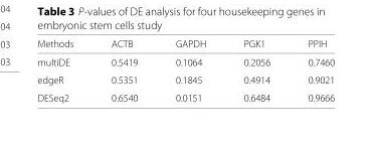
<table><thead><tr><td>Methods</td><td>ACTB</td><td>GAPDH</td><td>PGK1</td><td>PPIH</td></tr></thead><tbody><tr><td>multiDE</td><td>0.5419</td><td>0.1064</td><td>0.2056</td><td>0.7460</td></tr><tr><td>edgeR</td><td>0.5351</td><td>0.1845</td><td>0.4914</td><td>0.9021</td></tr><tr><td>DESeq2</td><td>0.6540</td><td>0.0151</td><td>0.6484</td><td>0.9666</td></tr></tbody></table>